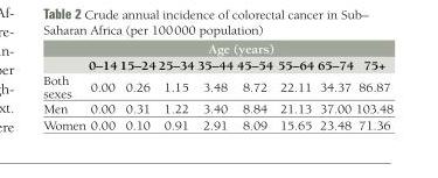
<table><thead><tr><td rowspan="2"></td><td colspan="8">Age (years)</td></tr><tr><td>0–14</td><td>15–24</td><td>25–34</td><td>35–44</td><td>45–54</td><td>55–64</td><td>65–74</td><td>75+</td></tr></thead><tbody><tr><td>Both sexes</td><td>0.00</td><td>0.26</td><td>1.15</td><td>3.48</td><td>8.72</td><td>22.11</td><td>34.37</td><td>86.87</td></tr><tr><td>Men</td><td>0.00</td><td>0.31</td><td>1.22</td><td>3.40</td><td>8.84</td><td>21.13</td><td>37.00</td><td>103.48</td></tr><tr><td>Women</td><td>0.00</td><td>0.10</td><td>0.91</td><td>2.91</td><td>8.09</td><td>15.65</td><td>23.48</td><td>71.36</td></tr></tbody></table>